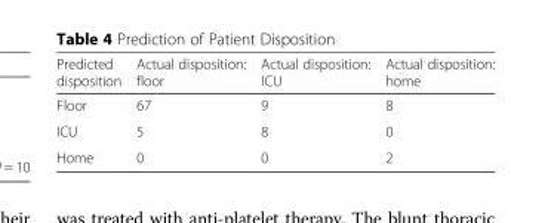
<table><thead><tr><td>Predicted disposition</td><td>Actual disposition: floor</td><td>Actual disposition: ICU</td><td>Actual disposition: home</td></tr></thead><tbody><tr><td>Floor</td><td>67</td><td>9</td><td>8</td></tr><tr><td>ICU</td><td>5</td><td>8</td><td>0</td></tr><tr><td>Home</td><td>0</td><td>0</td><td>2</td></tr></tbody></table>